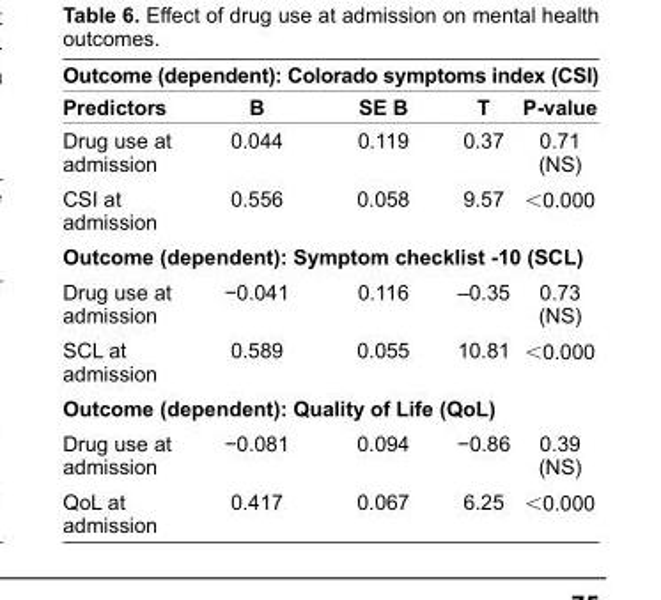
<table><thead><tr><td colspan="5">Outcome (dependent): colorado symptoms index (csI)</td></tr><tr><td>predictors</td><td>B</td><td>se B</td><td>T</td><td>p-value</td></tr></thead><tbody><tr><td>Drug use at admission</td><td>0.044</td><td>0.119</td><td>0.37</td><td>0.71 (nS)</td></tr><tr><td>CSi at admission</td><td>0.556</td><td>0.058</td><td>9.57</td><td>&lt;0.000</td></tr><tr><td colspan="5">Outcome (dependent): symptom checklist -10 (scL)</td></tr><tr><td>Drug use at admission</td><td>−0.041</td><td>0.116</td><td>–0.35</td><td>0.73 (nS)</td></tr><tr><td>SCL at admission</td><td>0.589</td><td>0.055</td><td>10.81</td><td>&lt;0.000</td></tr><tr><td colspan="5">Outcome (dependent): Quality of Life (QoL)</td></tr><tr><td>Drug use at admission</td><td>−0.081</td><td>0.094</td><td>−0.86</td><td>0.39 (nS)</td></tr><tr><td>QoL at admission</td><td>0.417</td><td>0.067</td><td>6.25</td><td>&lt;0.000</td></tr></tbody></table>